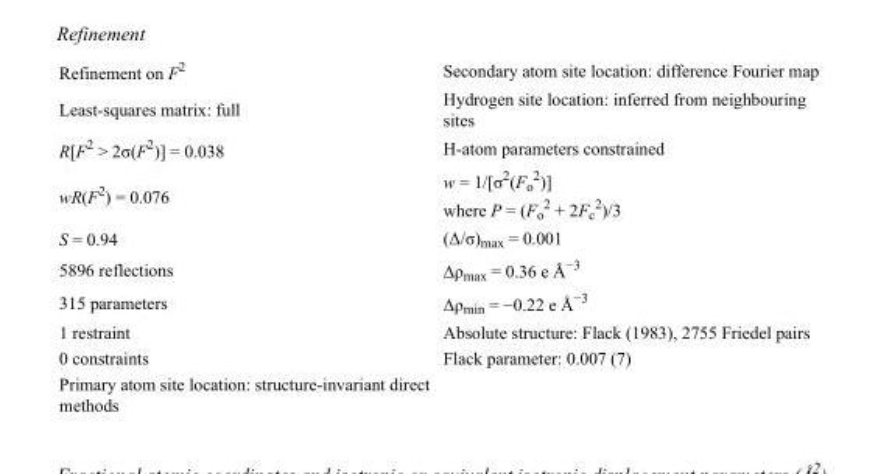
<table><tbody><tr><td>Refinement on F<sup>2</sup></td><td>Secondary atom site location: difference Fourier map</td></tr><tr><td>Least-squares matrix: full</td><td>Hydrogen site location: inferred from neighbouring sites</td></tr><tr><td>R[F<sup>2</sup> &gt; 2σ(F<sup>2</sup>)] = 0.038</td><td>H-atom parameters constrained</td></tr><tr><td>wR(F<sup>2</sup>) = 0.076</td><td>w = 1/[σ<sup>2</sup>(F<sub>o</sub> <sup>2</sup>)] where P = (F<sub>o</sub> <sup>2</sup> + 2F<sub>c</sub> <sup>2</sup>)/3</td></tr><tr><td>S = 0.94</td><td>(Δ/σ)<sub>max</sub> = 0.001</td></tr><tr><td>5896 reflections</td><td>Δρ<sub>max</sub> = 0.36 e Å<sup>−3</sup></td></tr><tr><td>315 parameters</td><td>Δρ<sub>min</sub> = −0.22 e Å<sup>−3</sup></td></tr><tr><td>1 restraint</td><td>Absolute structure: Flack (1983), 2755 Friedel pairs</td></tr><tr><td>0 constraints</td><td>Flack parameter: 0.007 (7)</td></tr><tr><td>Primary atom site location: structure-invariant direct methods</td><td></td></tr></tbody></table>